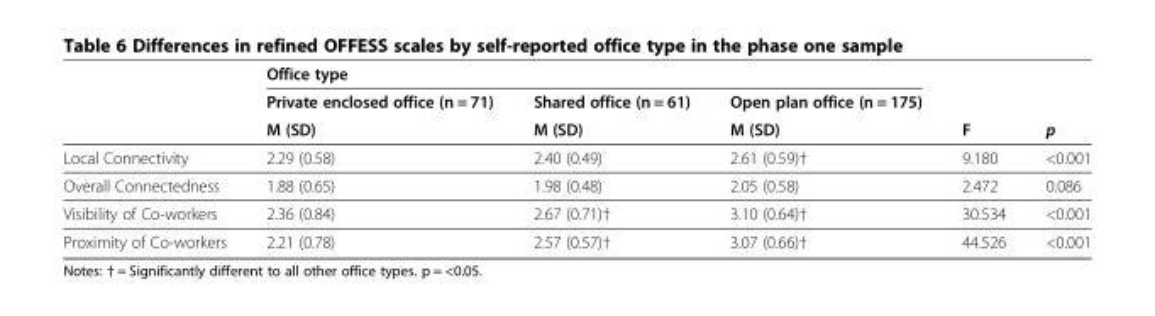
<table><thead><tr><td rowspan="3"></td><td colspan="3">Office type</td><td rowspan="3">F</td><td rowspan="3">p</td></tr><tr><td rowspan="2">Private enclosed office (n = 71) M (SD)</td><td rowspan="2">Shared office (n = 61) M (SD)</td><td rowspan="2">Open plan office (n = 175) M (SD)</td></tr><tr></tr></thead><tbody><tr><td>Local Connectivity</td><td>2.29 (0.58)</td><td>2.40 (0.49)</td><td>2.61 (0.59)†</td><td>9.180</td><td>&lt;0.001</td></tr><tr><td>Overall Connectedness</td><td>1.88 (0.65)</td><td>1.98 (0.48)</td><td>2.05 (0.58)</td><td>2.472</td><td>0.086</td></tr><tr><td>Visibility of Co-workers</td><td>2.36 (0.84)</td><td>2.67 (0.71)†</td><td>3.10 (0.64)†</td><td>30.534</td><td>&lt;0.001</td></tr><tr><td>Proximity of Co-workers</td><td>2.21 (0.78)</td><td>2.57 (0.57)†</td><td>3.07 (0.66)†</td><td>44.526</td><td>&lt;0.001</td></tr></tbody></table>